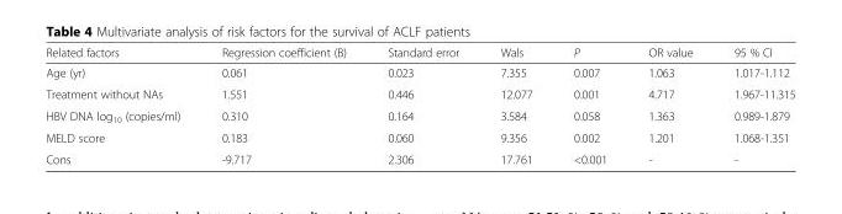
<table><thead><tr><td>Related factors</td><td>Regression coefficient (B)</td><td>Standard error</td><td>Wals</td><td>P</td><td>OR value</td><td>95 % CI</td></tr></thead><tbody><tr><td>Age (yr)</td><td>0.061</td><td>0.023</td><td>7.355</td><td>0.007</td><td>1.063</td><td>1.017-1.112</td></tr><tr><td>Treatment without NAs</td><td>1.551</td><td>0.446</td><td>12.077</td><td>0.001</td><td>4.717</td><td>1.967-11.315</td></tr><tr><td>HBV DNA log<sub>10</sub> (copies/ml)</td><td>0.310</td><td>0.164</td><td>3.584</td><td>0.058</td><td>1.363</td><td>0.989-1.879</td></tr><tr><td>MELD score</td><td>0.183</td><td>0.060</td><td>9.356</td><td>0.002</td><td>1.201</td><td>1.068-1.351</td></tr><tr><td>Cons</td><td>-9.717</td><td>2.306</td><td>17.761</td><td>&lt;0.001</td><td>-</td><td>-</td></tr></tbody></table>